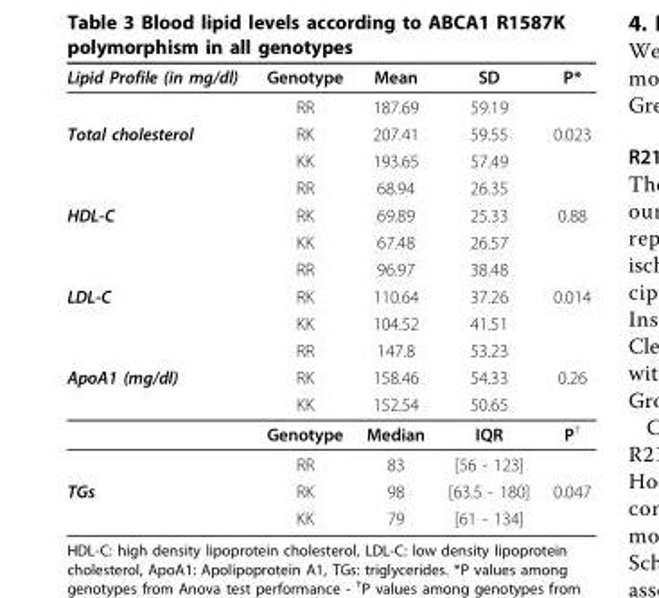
<table><thead><tr><td>Lipid Profile (in mg/dl)</td><td>Genotype</td><td>Mean</td><td>SD</td><td>P*</td></tr></thead><tbody><tr><td></td><td>RR</td><td>187.69</td><td>59.19</td><td></td></tr><tr><td rowspan="3">Total cholesterol</td><td>RK</td><td>207.41</td><td>59.55</td><td>0.023</td></tr><tr><td>KK</td><td>193.65</td><td>57.49</td><td></td></tr><tr><td>RR</td><td>68.94</td><td>26.35</td><td></td></tr><tr><td rowspan="3">HDL-C</td><td>RK</td><td>69.89</td><td>25.33</td><td>0.88</td></tr><tr><td>KK</td><td>67.48</td><td>26.57</td><td></td></tr><tr><td>RR</td><td>96.97</td><td>38.48</td><td></td></tr><tr><td rowspan="3">LDL-C</td><td>RK</td><td>110.64</td><td>37.26</td><td>0.014</td></tr><tr><td>KK</td><td>104.52</td><td>41.51</td><td></td></tr><tr><td>RR</td><td>147.8</td><td>53.23</td><td></td></tr><tr><td rowspan="4">ApoA1 (mg/dl)</td><td>RK</td><td>158.46</td><td>54.33</td><td>0.26</td></tr><tr><td>KK</td><td>152.54</td><td>50.65</td><td></td></tr><tr><td>Genotype</td><td>Median</td><td>IQR</td><td>P<sup>†</sup></td></tr><tr><td>RR</td><td>83</td><td>[56 - 123]</td><td></td></tr><tr><td rowspan="2">TGs</td><td>RK</td><td>98</td><td>[63.5 - 180]</td><td>0.047</td></tr><tr><td>KK</td><td>79</td><td>[61 - 134]</td><td></td></tr></tbody></table>